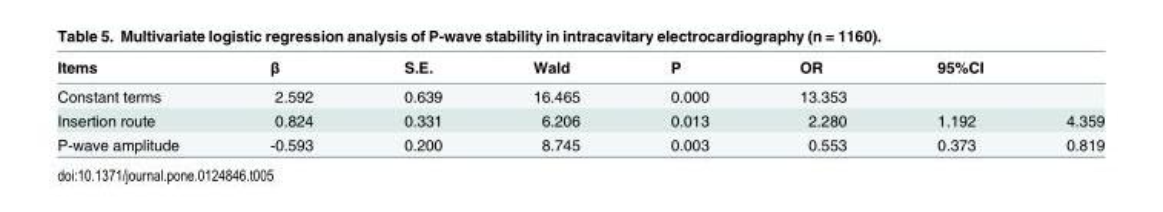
<table><thead><tr><td rowspan="3">Items Constant terms Insertion route</td><td rowspan="3">β 2.592 0.824</td><td rowspan="3">S.E. 0.639 0.331</td><td rowspan="3">Wald 16.465 6.206</td><td rowspan="3">P 0.000 0.013</td><td rowspan="3">OR 13.353 2.280</td><td rowspan="2" colspan="2">95%CI</td></tr><tr></tr><tr><td>1.192</td><td>4.359</td></tr></thead><tbody><tr><td>P-wave amplitude</td><td>-0.593</td><td>0.200</td><td>8.745</td><td>0.003</td><td>0.553</td><td>0.373</td><td>0.819</td></tr></tbody></table>